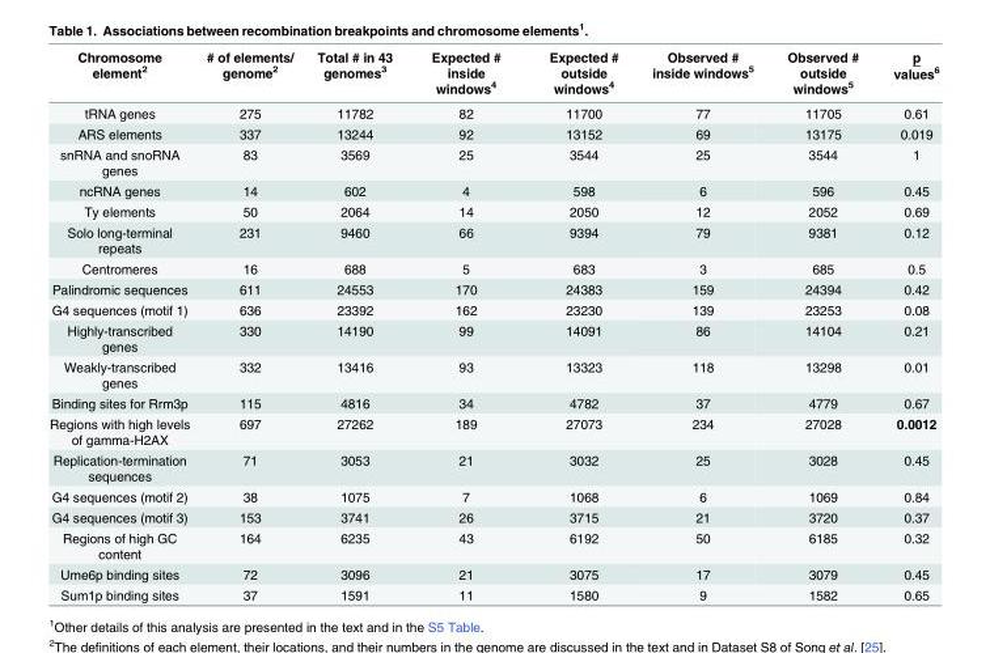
<table><thead><tr><td>Chromosome element<sup>2</sup></td><td># of elements/ genome<sup>2</sup></td><td>Total # in 43 genomes<sup>3</sup></td><td>Expected # inside windows<sup>4</sup></td><td>Expected # outside windows<sup>4</sup></td><td>Observed # inside windows<sup>5</sup></td><td>Observed # outside windows<sup>5</sup></td><td>p values<sup>6</sup></td></tr></thead><tbody><tr><td>tRNA genes</td><td>275</td><td>11782</td><td>82</td><td>11700</td><td>77</td><td>11705</td><td>0.61</td></tr><tr><td>ARS elements</td><td>337</td><td>13244</td><td>92</td><td>13152</td><td>69</td><td>13175</td><td>0.019</td></tr><tr><td>snRNA and snoRNA genes</td><td>83</td><td>3569</td><td>25</td><td>3544</td><td>25</td><td>3544</td><td>1</td></tr><tr><td>ncRNA genes</td><td>14</td><td>602</td><td>4</td><td>598</td><td>6</td><td>596</td><td>0.45</td></tr><tr><td>Ty elements</td><td>50</td><td>2064</td><td>14</td><td>2050</td><td>12</td><td>2052</td><td>0.69</td></tr><tr><td>Solo long-terminal repeats</td><td>231</td><td>9460</td><td>66</td><td>9394</td><td>79</td><td>9381</td><td>0.12</td></tr><tr><td>Centromeres</td><td>16</td><td>688</td><td>5</td><td>683</td><td>3</td><td>685</td><td>0.5</td></tr><tr><td>Palindromic sequences</td><td>611</td><td>24553</td><td>170</td><td>24383</td><td>159</td><td>24394</td><td>0.42</td></tr><tr><td>G4 sequences (motif 1)</td><td>636</td><td>23392</td><td>162</td><td>23230</td><td>139</td><td>23253</td><td>0.08</td></tr><tr><td>Highly-transcribed genes</td><td>330</td><td>14190</td><td>99</td><td>14091</td><td>86</td><td>14104</td><td>0.21</td></tr><tr><td>Weakly-transcribed genes</td><td>332</td><td>13416</td><td>93</td><td>13323</td><td>118</td><td>13298</td><td>0.01</td></tr><tr><td>Binding sites for Rrm3p</td><td>115</td><td>4816</td><td>34</td><td>4782</td><td>37</td><td>4779</td><td>0.67</td></tr><tr><td>Regions with high levels of gamma-H2AX</td><td>697</td><td>27262</td><td>189</td><td>27073</td><td>234</td><td>27028</td><td>0.0012</td></tr><tr><td>Replication-termination sequences</td><td>71</td><td>3053</td><td>21</td><td>3032</td><td>25</td><td>3028</td><td>0.45</td></tr><tr><td>G4 sequences (motif 2)</td><td>38</td><td>1075</td><td>7</td><td>1068</td><td>6</td><td>1069</td><td>0.84</td></tr><tr><td>G4 sequences (motif 3)</td><td>153</td><td>3741</td><td>26</td><td>3715</td><td>21</td><td>3720</td><td>0.37</td></tr><tr><td>Regions of high GC content</td><td>164</td><td>6235</td><td>43</td><td>6192</td><td>50</td><td>6185</td><td>0.32</td></tr><tr><td>Ume6p binding sites</td><td>72</td><td>3096</td><td>21</td><td>3075</td><td>17</td><td>3079</td><td>0.45</td></tr><tr><td>Sum1p binding sites</td><td>37</td><td>1591</td><td>11</td><td>1580</td><td>9</td><td>1582</td><td>0.65</td></tr></tbody></table>